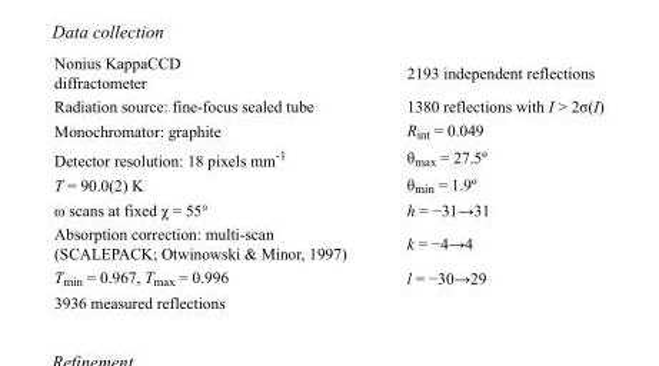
<table><tbody><tr><td>Nonius KappaCCD diffractometer</td><td>2193 independent reflections</td></tr><tr><td>Radiation source: fine-focus sealed tube</td><td>1380 reflections with I &gt; 2σ(I)</td></tr><tr><td>Monochromator: graphite</td><td>R<sub>int</sub> = 0.049</td></tr><tr><td>Detector resolution: 18 pixels mm<sup>-1</sup></td><td>θ<sub>max</sub> = 27.5º</td></tr><tr><td>T = 90.0(2) K</td><td>θ<sub>min</sub> = 1.9º</td></tr><tr><td>ω scans at fixed χ = 55°</td><td>h = −31→31</td></tr><tr><td>Absorption correction: multi-scan (SCALEPACK; Otwinowski &amp; Minor, 1997)</td><td>k = −4→4</td></tr><tr><td>T<sub>min</sub> = 0.967, T<sub>max</sub> = 0.996</td><td>l = −30→29</td></tr><tr><td>3936 measured reflections</td><td></td></tr></tbody></table>